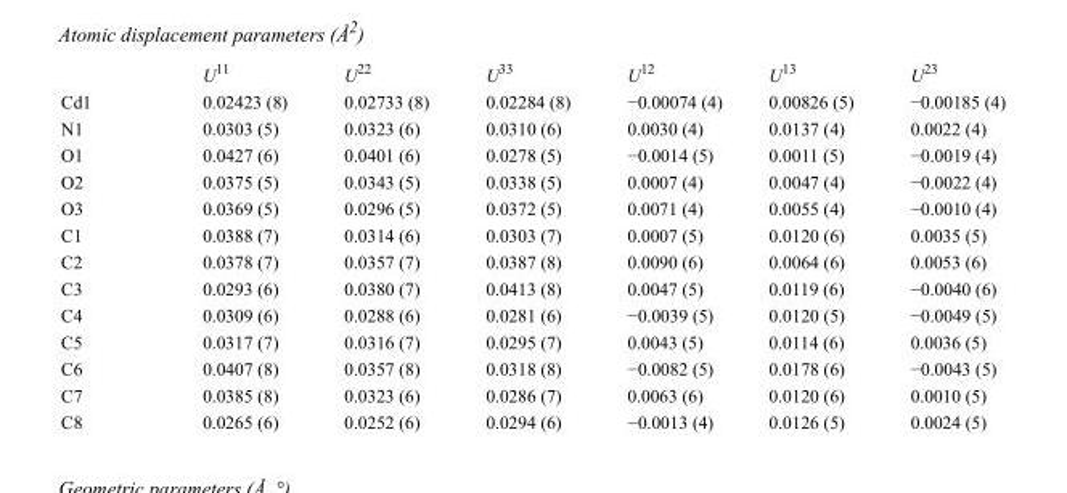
<table><thead><tr><td></td><td>U<sup>11</sup></td><td>U<sup>22</sup></td><td>U<sup>33</sup></td><td>U<sup>12</sup></td><td>U<sup>13</sup></td><td>U<sup>23</sup></td></tr></thead><tbody><tr><td>Cd1</td><td>0.02423 (8)</td><td>0.02733 (8)</td><td>0.02284 (8)</td><td>−0.00074 (4)</td><td>0.00826 (5)</td><td>−0.00185 (4)</td></tr><tr><td>N1</td><td>0.0303 (5)</td><td>0.0323 (6)</td><td>0.0310 (6)</td><td>0.0030 (4)</td><td>0.0137 (4)</td><td>0.0022 (4)</td></tr><tr><td>O1</td><td>0.0427 (6)</td><td>0.0401 (6)</td><td>0.0278 (5)</td><td>−0.0014 (5)</td><td>0.0011 (5)</td><td>−0.0019 (4)</td></tr><tr><td>O2</td><td>0.0375 (5)</td><td>0.0343 (5)</td><td>0.0338 (5)</td><td>0.0007 (4)</td><td>0.0047 (4)</td><td>−0.0022 (4)</td></tr><tr><td>O3</td><td>0.0369 (5)</td><td>0.0296 (5)</td><td>0.0372 (5)</td><td>0.0071 (4)</td><td>0.0055 (4)</td><td>−0.0010 (4)</td></tr><tr><td>C1</td><td>0.0388 (7)</td><td>0.0314 (6)</td><td>0.0303 (7)</td><td>0.0007 (5)</td><td>0.0120 (6)</td><td>0.0035 (5)</td></tr><tr><td>C2</td><td>0.0378 (7)</td><td>0.0357 (7)</td><td>0.0387 (8)</td><td>0.0090 (6)</td><td>0.0064 (6)</td><td>0.0053 (6)</td></tr><tr><td>C3</td><td>0.0293 (6)</td><td>0.0380 (7)</td><td>0.0413 (8)</td><td>0.0047 (5)</td><td>0.0119 (6)</td><td>−0.0040 (6)</td></tr><tr><td>C4</td><td>0.0309 (6)</td><td>0.0288 (6)</td><td>0.0281 (6)</td><td>−0.0039 (5)</td><td>0.0120 (5)</td><td>−0.0049 (5)</td></tr><tr><td>C5</td><td>0.0317 (7)</td><td>0.0316 (7)</td><td>0.0295 (7)</td><td>0.0043 (5)</td><td>0.0114 (6)</td><td>0.0036 (5)</td></tr><tr><td>C6</td><td>0.0407 (8)</td><td>0.0357 (8)</td><td>0.0318 (8)</td><td>−0.0082 (5)</td><td>0.0178 (6)</td><td>−0.0043 (5)</td></tr><tr><td>C7</td><td>0.0385 (8)</td><td>0.0323 (6)</td><td>0.0286 (7)</td><td>0.0063 (6)</td><td>0.0120 (6)</td><td>0.0010 (5)</td></tr><tr><td>C8</td><td>0.0265 (6)</td><td>0.0252 (6)</td><td>0.0294 (6)</td><td>−0.0013 (4)</td><td>0.0126 (5)</td><td>0.0024 (5)</td></tr></tbody></table>